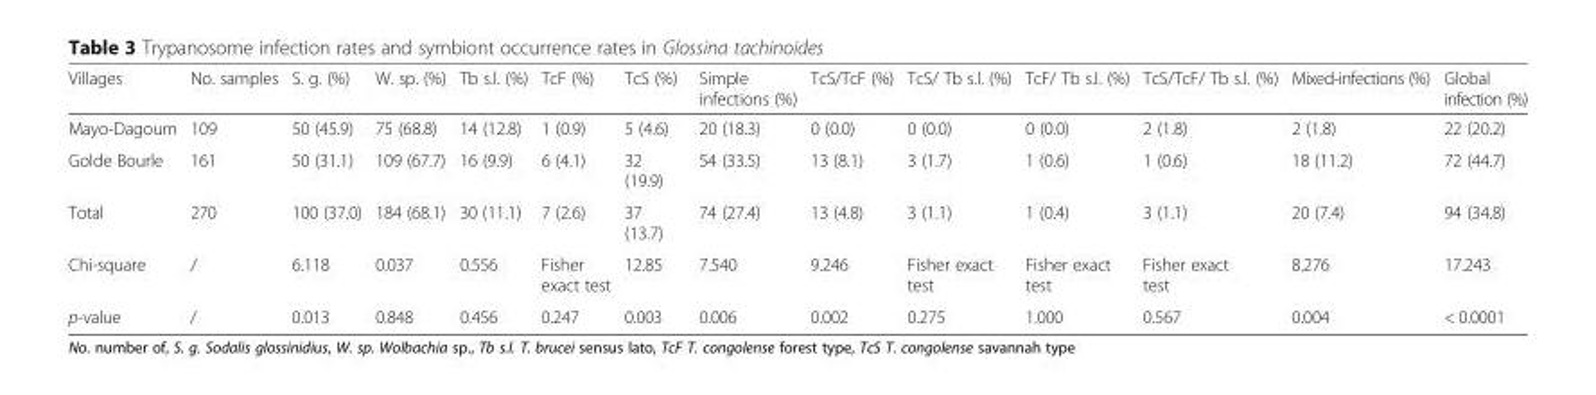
<table><thead><tr><td>Villages</td><td>No. samples</td><td>S. g. (%)</td><td>W. sp. (%)</td><td>Tb s.l. (%)</td><td>TcF (%)</td><td>TcS (%)</td><td>Simple infections (%)</td><td>TcS/TcF (%)</td><td>TcS/ Tb s.l. (%)</td><td>TcF/ Tb s.l. (%)</td><td>TcS/TcF/ Tb s.l. (%)</td><td>Mixed-infections (%)</td><td>Global infection (%)</td></tr></thead><tbody><tr><td>Mayo-Dagoum</td><td>109</td><td>50 (45.9)</td><td>75 (68.8)</td><td>14 (12.8)</td><td>1 (0.9)</td><td>5 (4.6)</td><td>20 (18.3)</td><td>0 (0.0)</td><td>0 (0.0)</td><td>0 (0.0)</td><td>2 (1.8)</td><td>2 (1.8)</td><td>22 (20.2)</td></tr><tr><td>Golde Bourle</td><td>161</td><td>50 (31.1)</td><td>109 (67.7)</td><td>16 (9.9)</td><td>6 (4.1)</td><td>32 (19.9)</td><td>54 (33.5)</td><td>13 (8.1)</td><td>3 (1.7)</td><td>1 (0.6)</td><td>1 (0.6)</td><td>18 (11.2)</td><td>72 (44.7)</td></tr><tr><td>Total</td><td>270</td><td>100 (37.0)</td><td>184 (68.1)</td><td>30 (11.1)</td><td>7 (2.6)</td><td>37 (13.7)</td><td>74 (27.4)</td><td>13 (4.8)</td><td>3 (1.1)</td><td>1 (0.4)</td><td>3 (1.1)</td><td>20 (7.4)</td><td>94 (34.8)</td></tr><tr><td>Chi-square</td><td>/</td><td>6.118</td><td>0.037</td><td>0.556</td><td>Fisher exact test</td><td>12.85</td><td>7.540</td><td>9.246</td><td>Fisher exact test</td><td>Fisher exact test</td><td>Fisher exact test</td><td>8.276</td><td>17.243</td></tr><tr><td>p-value</td><td>/</td><td>0.013</td><td>0.848</td><td>0.456</td><td>0.247</td><td>0.003</td><td>0.006</td><td>0.002</td><td>0.275</td><td>1.000</td><td>0.567</td><td>0.004</td><td>&lt; 0.0001</td></tr></tbody></table>